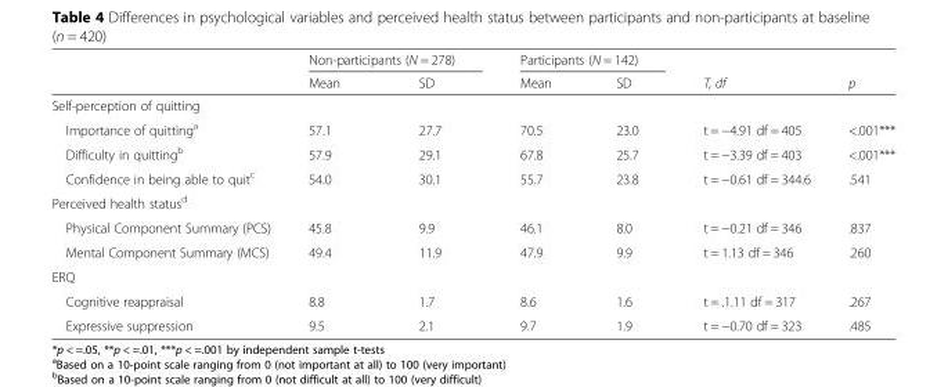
<table><thead><tr><td rowspan="2"></td><td colspan="2">Non-participants (N = 278)</td><td colspan="2">Participants (N = 142)</td><td rowspan="2">T, df</td><td rowspan="2">p</td></tr><tr><td>Mean</td><td>SD</td><td>Mean</td><td>SD</td></tr></thead><tbody><tr><td colspan="7">Self-perception of quitting</td></tr><tr><td>Importance of quitting<sup>a</sup></td><td>57.1</td><td>27.7</td><td>70.5</td><td>23.0</td><td>t = −4.91 df = 405</td><td>&lt;.001***</td></tr><tr><td>Difficulty in quitting<sup>b</sup></td><td>57.9</td><td>29.1</td><td>67.8</td><td>25.7</td><td>t = −3.39 df = 403</td><td>&lt;.001***</td></tr><tr><td>Confidence in being able to quit<sup>c</sup></td><td>54.0</td><td>30.1</td><td>55.7</td><td>23.8</td><td>t = −0.61 df = 344.6</td><td>.541</td></tr><tr><td colspan="7">Perceived health status<sup>d</sup></td></tr><tr><td>Physical Component Summary (PCS)</td><td>45.8</td><td>9.9</td><td>46.1</td><td>8.0</td><td>t = −0.21 df = 346</td><td>.837</td></tr><tr><td>Mental Component Summary (MCS)</td><td>49.4</td><td>11.9</td><td>47.9</td><td>9.9</td><td>t = 1.13 df = 346</td><td>.260</td></tr><tr><td colspan="7">ERQ</td></tr><tr><td>Cognitive reappraisal</td><td>8.8</td><td>1.7</td><td>8.6</td><td>1.6</td><td>t = .1.11 df = 317</td><td>.267</td></tr><tr><td>Expressive suppression</td><td>9.5</td><td>2.1</td><td>9.7</td><td>1.9</td><td>t = −0.70 df = 323</td><td>.485</td></tr></tbody></table>